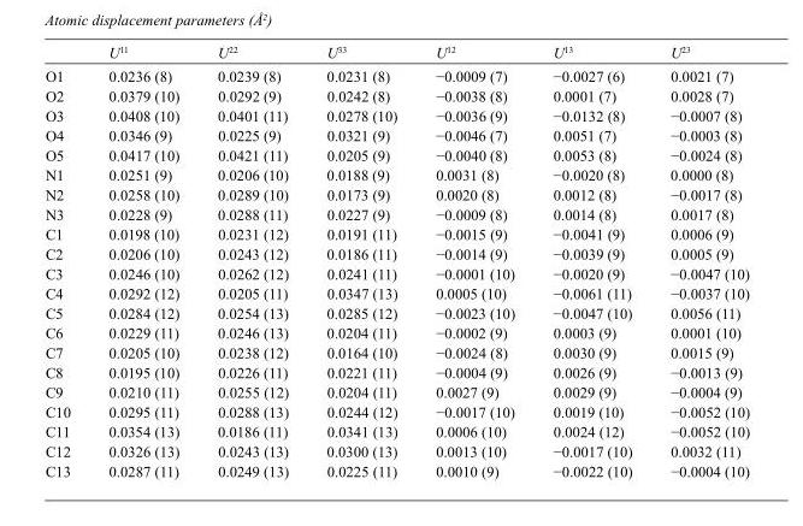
<table><thead><tr><td></td><td>U<sup>11</sup></td><td>U<sup>22</sup></td><td>U<sup>33</sup></td><td>U<sup>12</sup></td><td>U<sup>13</sup></td><td>U<sup>23</sup></td></tr></thead><tbody><tr><td>O1</td><td>0.0236 (8)</td><td>0.0239 (8)</td><td>0.0231 (8)</td><td>−0.0009 (7)</td><td>−0.0027 (6)</td><td>0.0021 (7)</td></tr><tr><td>O2</td><td>0.0379 (10)</td><td>0.0292 (9)</td><td>0.0242 (8)</td><td>−0.0038 (8)</td><td>0.0001 (7)</td><td>0.0028 (7)</td></tr><tr><td>O3</td><td>0.0408 (10)</td><td>0.0401 (11)</td><td>0.0278 (10)</td><td>−0.0036 (9)</td><td>−0.0132 (8)</td><td>−0.0007 (8)</td></tr><tr><td>O4</td><td>0.0346 (9)</td><td>0.0225 (9)</td><td>0.0321 (9)</td><td>−0.0046 (7)</td><td>0.0051 (7)</td><td>−0.0003 (8)</td></tr><tr><td>O5</td><td>0.0417 (10)</td><td>0.0421 (11)</td><td>0.0205 (9)</td><td>−0.0040 (8)</td><td>0.0053 (8)</td><td>−0.0024 (8)</td></tr><tr><td>N1</td><td>0.0251 (9)</td><td>0.0206 (10)</td><td>0.0188 (9)</td><td>0.0031 (8)</td><td>−0.0020 (8)</td><td>0.0000 (8)</td></tr><tr><td>N2</td><td>0.0258 (10)</td><td>0.0289 (10)</td><td>0.0173 (9)</td><td>0.0020 (8)</td><td>0.0012 (8)</td><td>−0.0017 (8)</td></tr><tr><td>N3</td><td>0.0228 (9)</td><td>0.0288 (11)</td><td>0.0227 (9)</td><td>−0.0009 (8)</td><td>0.0014 (8)</td><td>0.0017 (8)</td></tr><tr><td>C1</td><td>0.0198 (10)</td><td>0.0231 (12)</td><td>0.0191 (11)</td><td>−0.0015 (9)</td><td>−0.0041 (9)</td><td>0.0006 (9)</td></tr><tr><td>C2</td><td>0.0206 (10)</td><td>0.0243 (12)</td><td>0.0186 (11)</td><td>−0.0014 (9)</td><td>−0.0039 (9)</td><td>0.0005 (9)</td></tr><tr><td>C3</td><td>0.0246 (10)</td><td>0.0262 (12)</td><td>0.0241 (11)</td><td>−0.0001 (10)</td><td>−0.0020 (9)</td><td>−0.0047 (10)</td></tr><tr><td>C4</td><td>0.0292 (12)</td><td>0.0205 (11)</td><td>0.0347 (13)</td><td>0.0005 (10)</td><td>−0.0061 (11)</td><td>−0.0037 (10)</td></tr><tr><td>C5</td><td>0.0284 (12)</td><td>0.0254 (13)</td><td>0.0285 (12)</td><td>−0.0023 (10)</td><td>−0.0047 (10)</td><td>0.0056 (11)</td></tr><tr><td>C6</td><td>0.0229 (11)</td><td>0.0246 (13)</td><td>0.0204 (11)</td><td>−0.0002 (9)</td><td>0.0003 (9)</td><td>0.0001 (10)</td></tr><tr><td>C7</td><td>0.0205 (10)</td><td>0.0238 (12)</td><td>0.0164 (10)</td><td>−0.0024 (8)</td><td>0.0030 (9)</td><td>0.0015 (9)</td></tr><tr><td>C8</td><td>0.0195 (10)</td><td>0.0226 (11)</td><td>0.0221 (11)</td><td>−0.0004 (9)</td><td>0.0026 (9)</td><td>−0.0013 (9)</td></tr><tr><td>C9</td><td>0.0210 (11)</td><td>0.0255 (12)</td><td>0.0204 (11)</td><td>0.0027 (9)</td><td>0.0029 (9)</td><td>−0.0004 (9)</td></tr><tr><td>C10</td><td>0.0295 (11)</td><td>0.0288 (13)</td><td>0.0244 (12)</td><td>−0.0017 (10)</td><td>0.0019 (10)</td><td>−0.0052 (10)</td></tr><tr><td>C11</td><td>0.0354 (13)</td><td>0.0186 (11)</td><td>0.0341 (13)</td><td>0.0006 (10)</td><td>0.0024 (12)</td><td>−0.0052 (10)</td></tr><tr><td>C12</td><td>0.0326 (13)</td><td>0.0243 (13)</td><td>0.0300 (13)</td><td>0.0013 (10)</td><td>−0.0017 (10)</td><td>0.0032 (11)</td></tr><tr><td>C13</td><td>0.0287 (11)</td><td>0.0249 (13)</td><td>0.0225 (11)</td><td>0.0010 (9)</td><td>−0.0022 (10)</td><td>−0.0004 (10)</td></tr></tbody></table>